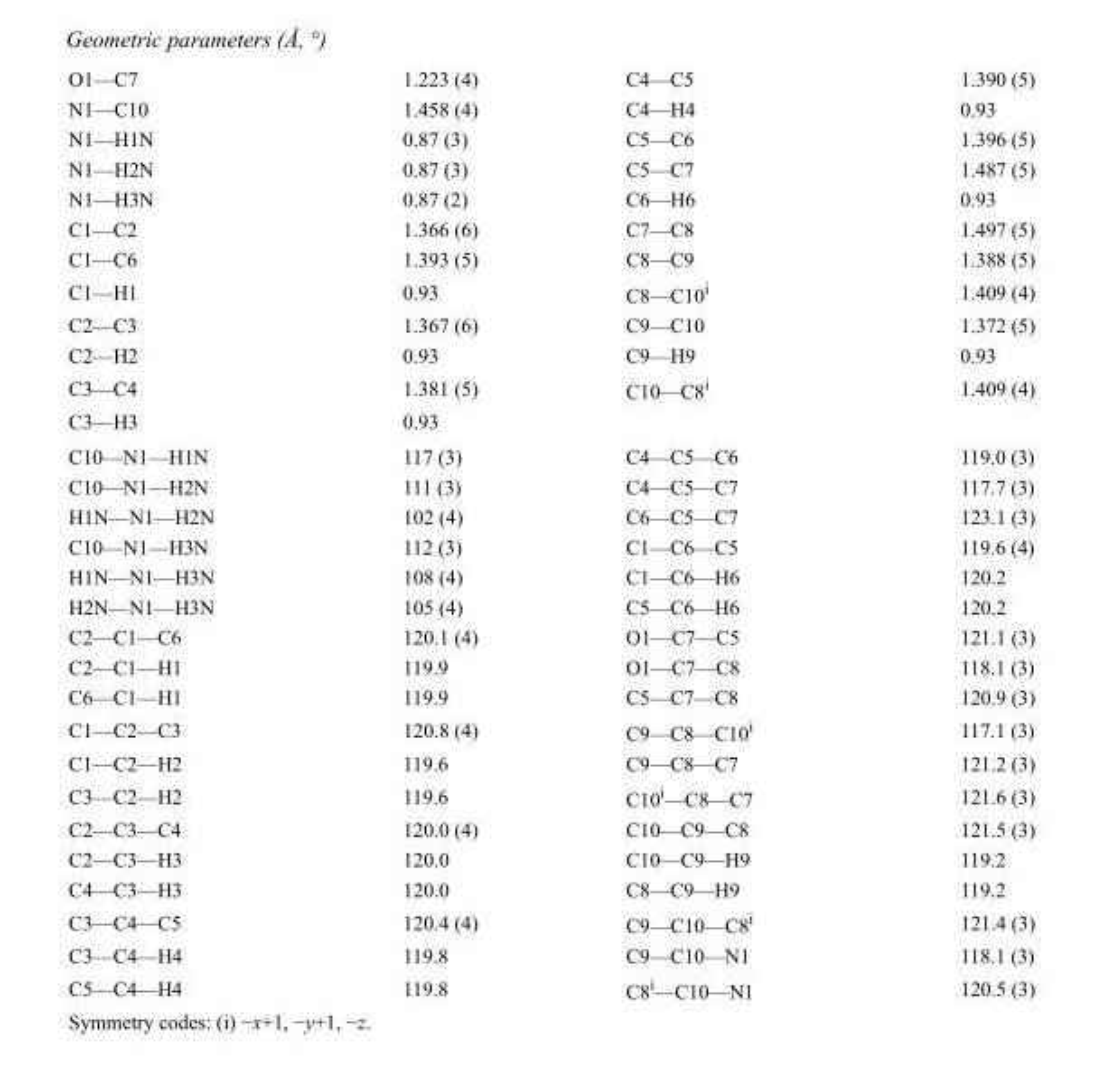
<table><tbody><tr><td>O1—C7</td><td>1.223 (4)</td><td>C4—C5</td><td>1.390 (5)</td></tr><tr><td>N1—C10</td><td>1.458 (4)</td><td>C4—H4</td><td>0.93</td></tr><tr><td>N1—H1N</td><td>0.87 (3)</td><td>C5—C6</td><td>1.396 (5)</td></tr><tr><td>N1—H2N</td><td>0.87 (3)</td><td>C5—C7</td><td>1.487 (5)</td></tr><tr><td>N1—H3N</td><td>0.87 (2)</td><td>C6—H6</td><td>0.93</td></tr><tr><td>C1—C2</td><td>1.366 (6)</td><td>C7—C8</td><td>1.497 (5)</td></tr><tr><td>C1—C6</td><td>1.393 (5)</td><td>C8—C9</td><td>1.388 (5)</td></tr><tr><td>C1—H1</td><td>0.93</td><td>C8—C10<sup>i</sup></td><td>1.409 (4)</td></tr><tr><td>C2—C3</td><td>1.367 (6)</td><td>C9—C10</td><td>1.372 (5)</td></tr><tr><td>C2—H2</td><td>0.93</td><td>C9—H9</td><td>0.93</td></tr><tr><td>C3—C4</td><td>1.381 (5)</td><td>C10—C8<sup>i</sup></td><td>1.409 (4)</td></tr><tr><td>C3—H3</td><td>0.93</td><td></td><td></td></tr><tr><td>C10—N1—H1N</td><td>117 (3)</td><td>C4—C5—C6</td><td>119.0 (3)</td></tr><tr><td>C10—N1—H2N</td><td>111 (3)</td><td>C4—C5—C7</td><td>117.7 (3)</td></tr><tr><td>H1N—N1—H2N</td><td>102 (4)</td><td>C6—C5—C7</td><td>123.1 (3)</td></tr><tr><td>C10—N1—H3N</td><td>112 (3)</td><td>C1—C6—C5</td><td>119.6 (4)</td></tr><tr><td>H1N—N1—H3N</td><td>108 (4)</td><td>C1—C6—H6</td><td>120.2</td></tr><tr><td>H2N—N1—H3N</td><td>105 (4)</td><td>C5—C6—H6</td><td>120.2</td></tr><tr><td>C2—C1—C6</td><td>120.1 (4)</td><td>O1—C7—C5</td><td>121.1 (3)</td></tr><tr><td>C2—C1—H1</td><td>119.9</td><td>O1—C7—C8</td><td>118.1 (3)</td></tr><tr><td>C6—C1—H1</td><td>119.9</td><td>C5—C7—C8</td><td>120.9 (3)</td></tr><tr><td>C1—C2—C3</td><td>120.8 (4)</td><td>C9—C8—C10<sup>i</sup></td><td>117.1 (3)</td></tr><tr><td>C1—C2—H2</td><td>119.6</td><td>C9—C8—C7</td><td>121.2 (3)</td></tr><tr><td>C3—C2—H2</td><td>119.6</td><td>C10<sup>i</sup>—C8—C7</td><td>121.6 (3)</td></tr><tr><td>C2—C3—C4</td><td>120.0 (4)</td><td>C10—C9—C8</td><td>121.5 (3)</td></tr><tr><td>C2—C3—H3</td><td>120.0</td><td>C10—C9—H9</td><td>119.2</td></tr><tr><td>C4—C3—H3</td><td>120.0</td><td>C8—C9—H9</td><td>119.2</td></tr><tr><td>C3—C4—C5</td><td>120.4 (4)</td><td>C9—C10—C8<sup>i</sup></td><td>121.4 (3)</td></tr><tr><td>C3—C4—H4</td><td>119.8</td><td>C9—C10—N1</td><td>118.1 (3)</td></tr><tr><td>C5—C4—H4</td><td>119.8</td><td>C8<sup>i</sup>—C10—N1</td><td>120.5 (3)</td></tr></tbody></table>